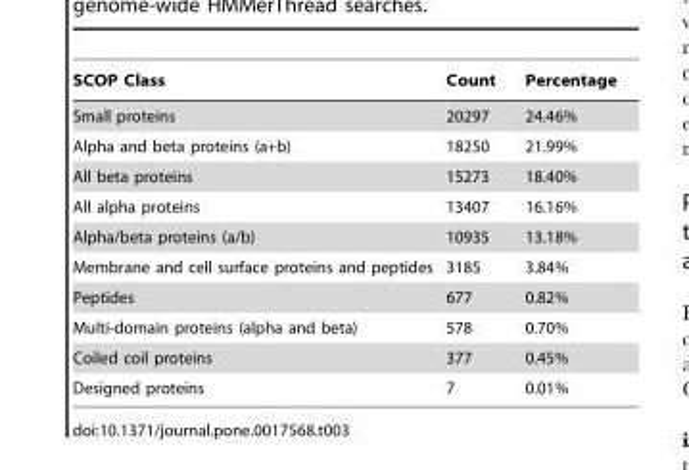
<table><thead><tr><td>SCOP Class</td><td>Count</td><td>Percentage</td></tr></thead><tbody><tr><td>Small proteins</td><td>20297</td><td>24.46%</td></tr><tr><td>Alpha and beta proteins (a+b)</td><td>18250</td><td>21.99%</td></tr><tr><td>All beta proteins</td><td>15273</td><td>18.40%</td></tr><tr><td>All alpha proteins</td><td>13407</td><td>16.16%</td></tr><tr><td>Alpha/beta proteins (a/b)</td><td>10935</td><td>13.18%</td></tr><tr><td>Membrane and cell surface proteins and peptides</td><td>3185</td><td>3.84%</td></tr><tr><td>Peptides</td><td>677</td><td>0.82%</td></tr><tr><td>Multi-domain proteins (alpha and beta)</td><td>578</td><td>0.70%</td></tr><tr><td>Coiled coil proteins</td><td>377</td><td>0.45%</td></tr><tr><td>Designed proteins</td><td>7</td><td>0.01%</td></tr></tbody></table>